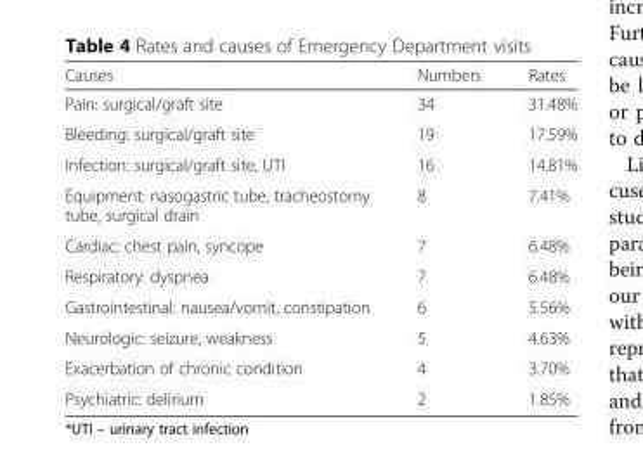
<table><thead><tr><td>Causes</td><td>Numbers</td><td>Rates</td></tr></thead><tbody><tr><td>Pain: surgical/graft site</td><td>34</td><td>31.48%</td></tr><tr><td>Bleeding: surgical/graft site</td><td>19</td><td>17.59%</td></tr><tr><td>Infection: surgical/graft site, UTI</td><td>16</td><td>14.81%</td></tr><tr><td>Equipment: nasogastric tube, tracheostomy tube, surgical drain</td><td>8</td><td>7.41%</td></tr><tr><td>Cardiac: chest pain, syncope</td><td>7</td><td>6.48%</td></tr><tr><td>Respiratory: dyspnea</td><td>7</td><td>6.48%</td></tr><tr><td>Gastrointestinal: nausea/vomit, constipation</td><td>6</td><td>5.56%</td></tr><tr><td>Neurologic: seizure, weakness</td><td>5</td><td>4.63%</td></tr><tr><td>Exacerbation of chronic condition</td><td>4</td><td>3.70%</td></tr><tr><td>Psychiatric: delirium</td><td>2</td><td>1.85%</td></tr></tbody></table>